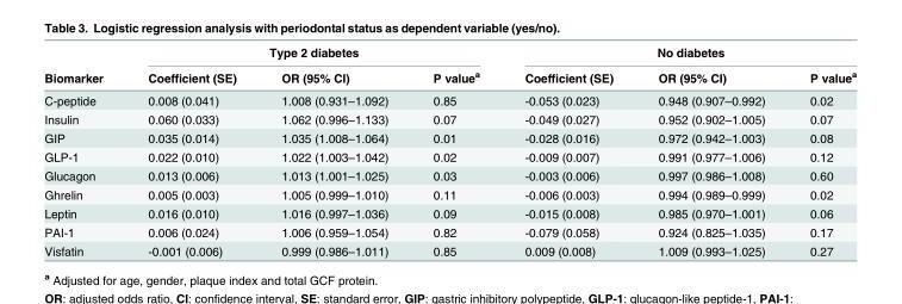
<table><thead><tr><td rowspan="2">Biomarker</td><td colspan="3">Type 2 diabetes</td><td colspan="3">No diabetes</td></tr><tr><td>Coefficient (SE)</td><td>OR (95% CI)</td><td>P value<sup>a</sup></td><td>Coefficient (SE)</td><td>OR (95% CI)</td><td>P value<sup>a</sup></td></tr></thead><tbody><tr><td>C-peptide</td><td>0.008 (0.041)</td><td>1.008 (0.931–1.092)</td><td>0.85</td><td>-0.053 (0.023)</td><td>0.948 (0.907–0.992)</td><td>0.02</td></tr><tr><td>Insulin</td><td>0.060 (0.033)</td><td>1.062 (0.996–1.133)</td><td>0.07</td><td>-0.049 (0.027)</td><td>0.952 (0.902–1.005)</td><td>0.07</td></tr><tr><td>GIP</td><td>0.035 (0.014)</td><td>1.035 (1.008–1.064)</td><td>0.01</td><td>-0.028 (0.016)</td><td>0.972 (0.942–1.003)</td><td>0.08</td></tr><tr><td>GLP-1</td><td>0.022 (0.010)</td><td>1.022 (1.003–1.042)</td><td>0.02</td><td>-0.009 (0.007)</td><td>0.991 (0.977–1.006)</td><td>0.12</td></tr><tr><td>Glucagon</td><td>0.013 (0.006)</td><td>1.013 (1.001–1.025)</td><td>0.03</td><td>-0.003 (0.006)</td><td>0.997 (0.986–1.008)</td><td>0.60</td></tr><tr><td>Ghrelin</td><td>0.005 (0.003)</td><td>1.005 (0.999–1.010)</td><td>0.11</td><td>-0.006 (0.003)</td><td>0.994 (0.989–0.999)</td><td>0.02</td></tr><tr><td>Leptin</td><td>0.016 (0.010)</td><td>1.016 (0.997–1.036)</td><td>0.09</td><td>-0.015 (0.008)</td><td>0.985 (0.970–1.001)</td><td>0.06</td></tr><tr><td>PAI-1</td><td>0.006 (0.024)</td><td>1.006 (0.959–1.054)</td><td>0.82</td><td>-0.079 (0.058)</td><td>0.924 (0.825–1.035)</td><td>0.17</td></tr><tr><td>Visfatin</td><td>-0.001 (0.006)</td><td>0.999 (0.986–1.011)</td><td>0.85</td><td>0.009 (0.008)</td><td>1.009 (0.993–1.025)</td><td>0.27</td></tr></tbody></table>